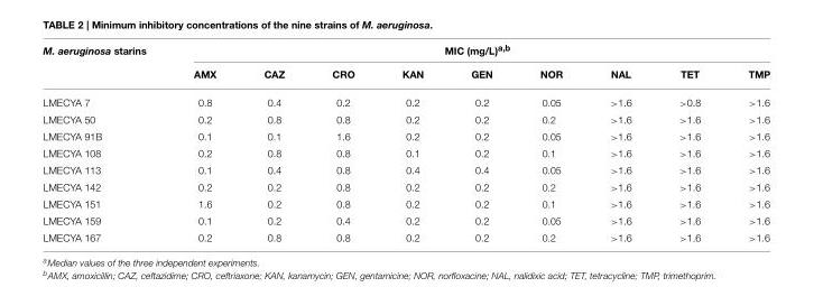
<table><thead><tr><td rowspan="2">M. aeruginosa starins</td><td colspan="9">MIC (mg/L)<sup>a,b</sup></td></tr><tr><td>AMX</td><td>CAZ</td><td>CRO</td><td>KAN</td><td>GEN</td><td>NOR</td><td>NAL</td><td>TET</td><td>TMP</td></tr></thead><tbody><tr><td>LMECYA 7</td><td>0.8</td><td>0.4</td><td>0.2</td><td>0.2</td><td>0.2</td><td>0.05</td><td>&gt;1.6</td><td>&gt;0.8</td><td>&gt;1.6</td></tr><tr><td>LMECYA 50</td><td>0.2</td><td>0.8</td><td>0.8</td><td>0.2</td><td>0.2</td><td>0.2</td><td>&gt;1.6</td><td>&gt;1.6</td><td>&gt;1.6</td></tr><tr><td>LMECYA 91B</td><td>0.1</td><td>0.1</td><td>1.6</td><td>0.2</td><td>0.2</td><td>0.05</td><td>&gt;1.6</td><td>&gt;1.6</td><td>&gt;1.6</td></tr><tr><td>LMECYA 108</td><td>0.2</td><td>0.8</td><td>0.8</td><td>0.1</td><td>0.2</td><td>0.1</td><td>&gt;1.6</td><td>&gt;1.6</td><td>&gt;1.6</td></tr><tr><td>LMECYA 113</td><td>0.1</td><td>0.4</td><td>0.8</td><td>0.4</td><td>0.4</td><td>0.05</td><td>&gt;1.6</td><td>&gt;1.6</td><td>&gt;1.6</td></tr><tr><td>LMECYA 142</td><td>0.2</td><td>0.2</td><td>0.8</td><td>0.2</td><td>0.2</td><td>0.2</td><td>&gt;1.6</td><td>&gt;1.6</td><td>&gt;1.6</td></tr><tr><td>LMECYA 151</td><td>1.6</td><td>0.2</td><td>0.8</td><td>0.2</td><td>0.2</td><td>0.1</td><td>&gt;1.6</td><td>&gt;1.6</td><td>&gt;1.6</td></tr><tr><td>LMECYA 159</td><td>0.1</td><td>0.2</td><td>0.4</td><td>0.2</td><td>0.2</td><td>0.05</td><td>&gt;1.6</td><td>&gt;1.6</td><td>&gt;1.6</td></tr><tr><td>LMECYA 167</td><td>0.2</td><td>0.8</td><td>0.8</td><td>0.2</td><td>0.2</td><td>0.2</td><td>&gt;1.6</td><td>&gt;1.6</td><td>&gt;1.6</td></tr></tbody></table>